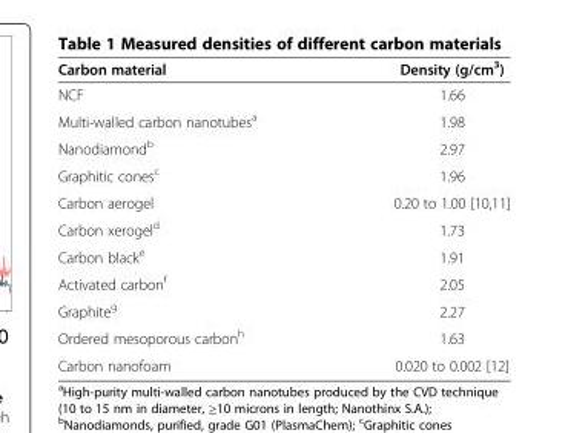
<table><thead><tr><td>Carbon material</td><td>Density (g/cm<sup>3</sup>)</td></tr></thead><tbody><tr><td>NCF</td><td>1.66</td></tr><tr><td>Multi-walled carbon nanotubes<sup>a</sup></td><td>1.98</td></tr><tr><td>Nanodiamond<sup>b</sup></td><td>2.97</td></tr><tr><td>Graphitic cones<sup>c</sup></td><td>1.96</td></tr><tr><td>Carbon aerogel</td><td>0.20 to 1.00 [10,11]</td></tr><tr><td>Carbon xerogel<sup>d</sup></td><td>1.73</td></tr><tr><td>Carbon black<sup>e</sup></td><td>1.91</td></tr><tr><td>Activated carbon<sup>f</sup></td><td>2.05</td></tr><tr><td>Graphite<sup>g</sup></td><td>2.27</td></tr><tr><td>Ordered mesoporous carbon<sup>h</sup></td><td>1.63</td></tr><tr><td>Carbon nanofoam</td><td>0.020 to 0.002 [12]</td></tr></tbody></table>